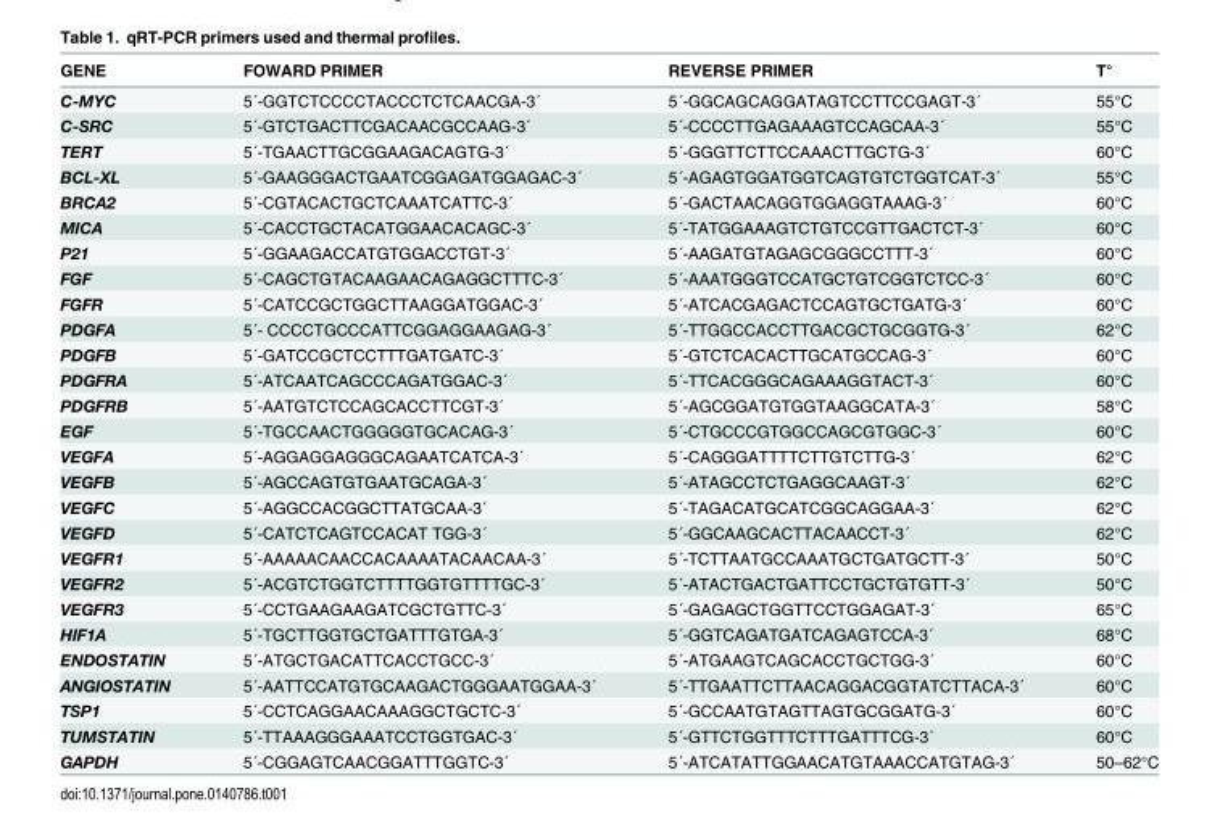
<table><thead><tr><td>GENE</td><td>FOWARD PRIMER</td><td>REVERSE PRIMER</td><td>T°</td></tr></thead><tbody><tr><td>C-MYC</td><td>5´-GGTCTCCCCTACCCTCTCAACGA-3´</td><td>5´-GGCAGCAGGATAGTCCTTCCGAGT-3´</td><td>55°C</td></tr><tr><td>C-SRC</td><td>5´-GTCTGACTTCGACAACGCCAAG-3´</td><td>5´-CCCCTTGAGAAAGTCCAGCAA-3´</td><td>55°C</td></tr><tr><td>TERT</td><td>5´-TGAACTTGCGGAAGACAGTG-3´</td><td>5´-GGGTTCTTCCAAACTTGCTG-3´</td><td>60°C</td></tr><tr><td>BCL-XL</td><td>5´-GAAGGGACTGAATCGGAGATGGAGAC-3´</td><td>5´-AGAGTGGATGGTCAGTGTCTGGTCAT-3´</td><td>55°C</td></tr><tr><td>BRCA2</td><td>5´-CGTACACTGCTCAAATCATTC-3´</td><td>5´-GACTAACAGGTGGAGGTAAAG-3´</td><td>60°C</td></tr><tr><td>MICA</td><td>5´-CACCTGCTACATGGAACACAGC-3´</td><td>5´-TATGGAAAGTCTGTCCGTTGACTCT-3´</td><td>60°C</td></tr><tr><td>P21</td><td>5´-GGAAGACCATGTGGACCTGT-3´</td><td>5´-AAGATGTAGAGCGGGCCTTT-3´</td><td>60°C</td></tr><tr><td>FGF</td><td>5´-CAGCTGTACAAGAACAGAGGCTTTC-3´</td><td>5´-AAATGGGTCCATGCTGTCGGTCTCC-3´</td><td>60°C</td></tr><tr><td>FGFR</td><td>5´-CATCCGCTGGCTTAAGGATGGAC-3´</td><td>5´-ATCACGAGACTCCAGTGCTGATG-3´</td><td>60°C</td></tr><tr><td>PDGFA</td><td>5´- CCCCTGCCCATTCGGAGGAAGAG-3´</td><td>5´-TTGGCCACCTTGACGCTGCGGTG-3´</td><td>62°C</td></tr><tr><td>PDGFB</td><td>5´-GATCCGCTCCTTTGATGATC-3´</td><td>5´-GTCTCACACTTGCATGCCAG-3´</td><td>60°C</td></tr><tr><td>PDGFRA</td><td>5´-ATCAATCAGCCCAGATGGAC-3´</td><td>5´-TTCACGGGCAGAAAGGTACT-3´</td><td>60°C</td></tr><tr><td>PDGFRB</td><td>5´-AATGTCTCCAGCACCTTCGT-3´</td><td>5´-AGCGGATGTGGTAAGGCATA-3´</td><td>58°C</td></tr><tr><td>EGF</td><td>5´-TGCCAACTGGGGGTGCACAG-3´</td><td>5´-CTGCCCGTGGCCAGCGTGGC-3´</td><td>60°C</td></tr><tr><td>VEGFA</td><td>5´-AGGAGGAGGGCAGAATCATCA-3´</td><td>5´-CAGGGATTTTCTTGTCTTG-3´</td><td>62°C</td></tr><tr><td>VEGFB</td><td>5´-AGCCAGTGTGAATGCAGA-3´</td><td>5´-ATAGCCTCTGAGGCAAGT-3´</td><td>62°C</td></tr><tr><td>VEGFC</td><td>5´-AGGCCACGGCTTATGCAA-3´</td><td>5´-TAGACATGCATCGGCAGGAA-3´</td><td>62°C</td></tr><tr><td>VEGFD</td><td>5´-CATCTCAGTCCACAT TGG-3´</td><td>5´-GGCAAGCACTTACAACCT-3´</td><td>62°C</td></tr><tr><td>VEGFR1</td><td>5´-AAAAACAACCACAAAATACAACAA-3´</td><td>5´-TCTTAATGCCAAATGCTGATGCTT-3´</td><td>50°C</td></tr><tr><td>VEGFR2</td><td>5´-ACGTCTGGTCTTTTGGTGTTTTGC-3´</td><td>5´-ATACTGACTGATTCCTGCTGTGTT-3´</td><td>50°C</td></tr><tr><td>VEGFR3</td><td>5´-CCTGAAGAAGATCGCTGTTC-3´</td><td>5´-GAGAGCTGGTTCCTGGAGAT-3´</td><td>65°C</td></tr><tr><td>HIF1A</td><td>5´-TGCTTGGTGCTGATTTGTGA-3´</td><td>5´-GGTCAGATGATCAGAGTCCA-3´</td><td>68°C</td></tr><tr><td>ENDOSTATIN</td><td>5´-ATGCTGACATTCACCTGCC-3´</td><td>5´-ATGAAGTCAGCACCTGCTGG-3´</td><td>60°C</td></tr><tr><td>ANGIOSTATIN</td><td>5´-AATTCCATGTGCAAGACTGGGAATGGAA-3´</td><td>5´-TTGAATTCTTAACAGGACGGTATCTTACA-3´</td><td>60°C</td></tr><tr><td>TSP1</td><td>5´-CCTCAGGAACAAAGGCTGCTC-3´</td><td>5´-GCCAATGTAGTTAGTGCGGATG-3´</td><td>60°C</td></tr><tr><td>TUMSTATIN</td><td>5´-TTAAAGGGAAATCCTGGTGAC-3´</td><td>5´-GTTCTGGTTTCTTTGATTTCG-3´</td><td>60°C</td></tr><tr><td>GAPDH</td><td>5´-CGGAGTCAACGGATTTGGTC-3´</td><td>5´-ATCATATTGGAACATGTAAACCATGTAG-3´</td><td>50–62°C</td></tr></tbody></table>